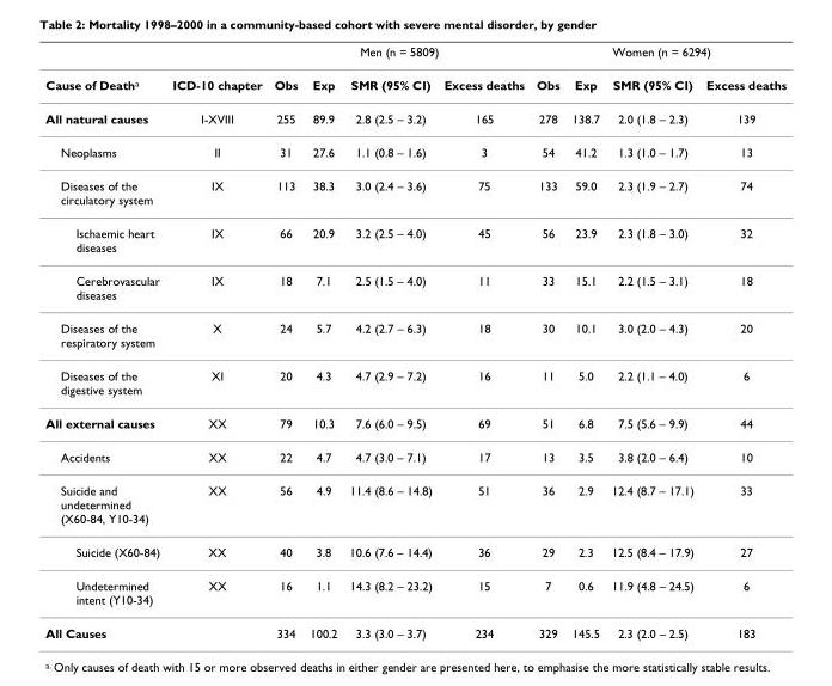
<table><thead><tr><td rowspan="2">Cause of Death<sup>a</sup></td><td rowspan="2">ICD-10 chapter</td><td colspan="4">Men (n = 5809)</td><td colspan="4">Women (n = 6294)</td></tr><tr><td>Obs</td><td>Exp</td><td>SMR (95% CI)</td><td>Excess deaths</td><td>Obs</td><td>Exp</td><td>SMR (95% CI)</td><td>Excess deaths</td></tr></thead><tbody><tr><td>All natural causes</td><td>I-XVIII</td><td>255</td><td>89.9</td><td>2.8 (2.5 – 3.2)</td><td>165</td><td>278</td><td>138.7</td><td>2.0 (1.8 – 2.3)</td><td>139</td></tr><tr><td>Neoplasms</td><td>II</td><td>31</td><td>27.6</td><td>1.1 (0.8 – 1.6)</td><td>3</td><td>54</td><td>41.2</td><td>1.3 (1.0 – 1.7)</td><td>13</td></tr><tr><td>Diseases of the circulatory system</td><td>IX</td><td>113</td><td>38.3</td><td>3.0 (2.4 – 3.6)</td><td>75</td><td>133</td><td>59.0</td><td>2.3 (1.9 – 2.7)</td><td>74</td></tr><tr><td>Ischaemic heart diseases</td><td>IX</td><td>66</td><td>20.9</td><td>3.2 (2.5 – 4.0)</td><td>45</td><td>56</td><td>23.9</td><td>2.3 (1.8 – 3.0)</td><td>32</td></tr><tr><td>Cerebrovascular diseases</td><td>IX</td><td>18</td><td>7.1</td><td>2.5 (1.5 – 4.0)</td><td>11</td><td>33</td><td>15.1</td><td>2.2 (1.5 – 3.1)</td><td>18</td></tr><tr><td>Diseases of the respiratory system</td><td>X</td><td>24</td><td>5.7</td><td>4.2 (2.7 – 6.3)</td><td>18</td><td>30</td><td>10.1</td><td>3.0 (2.0 – 4.3)</td><td>20</td></tr><tr><td>Diseases of the digestive system</td><td>XI</td><td>20</td><td>4.3</td><td>4.7 (2.9 – 7.2)</td><td>16</td><td>11</td><td>5.0</td><td>2.2 (1.1 – 4.0)</td><td>6</td></tr><tr><td>All external causes</td><td>XX</td><td>79</td><td>10.3</td><td>7.6 (6.0 – 9.5)</td><td>69</td><td>51</td><td>6.8</td><td>7.5 (5.6 – 9.9)</td><td>44</td></tr><tr><td>Accidents</td><td>XX</td><td>22</td><td>4.7</td><td>4.7 (3.0 – 7.1)</td><td>17</td><td>13</td><td>3.5</td><td>3.8 (2.0 – 6.4)</td><td>10</td></tr><tr><td>Suicide and undetermined (X60-84, Y10-34)</td><td>XX</td><td>56</td><td>4.9</td><td>11.4 (8.6 – 14.8)</td><td>51</td><td>36</td><td>2.9</td><td>12.4 (8.7 – 17.1)</td><td>33</td></tr><tr><td>Suicide (X60-84)</td><td>XX</td><td>40</td><td>3.8</td><td>10.6 (7.6 – 14.4)</td><td>36</td><td>29</td><td>2.3</td><td>12.5 (8.4 – 17.9)</td><td>27</td></tr><tr><td>Undetermined intent (Y10-34)</td><td>XX</td><td>16</td><td>1.1</td><td>14.3 (8.2 – 23.2)</td><td>15</td><td>7</td><td>0.6</td><td>11.9 (4.8 – 24.5)</td><td>6</td></tr><tr><td>All Causes</td><td></td><td>334</td><td>100.2</td><td>3.3 (3.0 – 3.7)</td><td>234</td><td>329</td><td>145.5</td><td>2.3 (2.0 – 2.5)</td><td>183</td></tr></tbody></table>